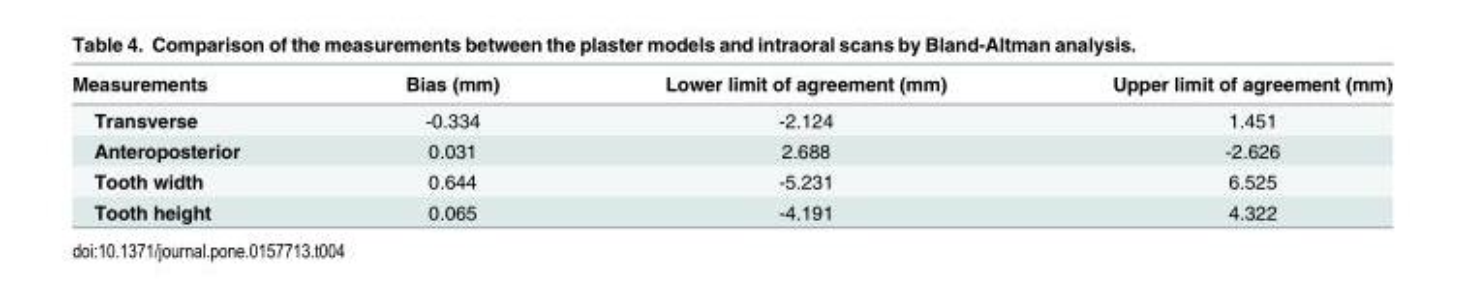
<table><thead><tr><td>Measurements</td><td>Bias (mm)</td><td>Lower limit of agreement (mm)</td><td>Upper limit of agreement (mm)</td></tr></thead><tbody><tr><td>Transverse</td><td>-0.334</td><td>-2.124</td><td>1.451</td></tr><tr><td>Anteroposterior</td><td>0.031</td><td>2.688</td><td>-2.626</td></tr><tr><td>Tooth width</td><td>0.644</td><td>-5.231</td><td>6.525</td></tr><tr><td>Tooth height</td><td>0.065</td><td>-4.191</td><td>4.322</td></tr></tbody></table>